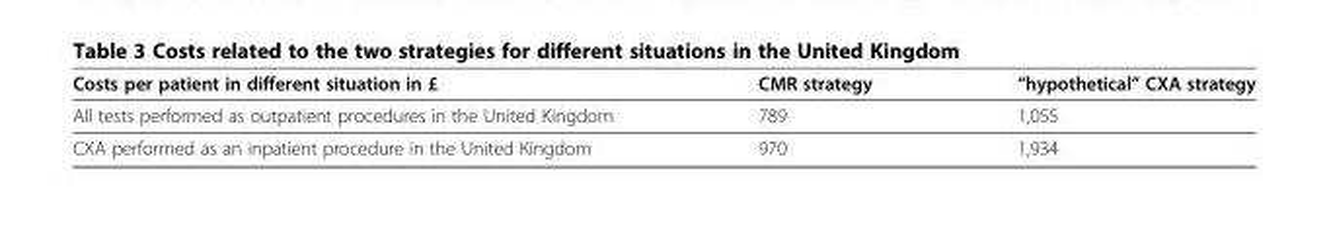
<table><thead><tr><td>Costs per patient in different situation in £</td><td>CMR strategy</td><td>“hypothetical” CXA strategy</td></tr></thead><tbody><tr><td>All tests performed as outpatient procedures in the United Kingdom</td><td>789</td><td>1,055</td></tr><tr><td>CXA performed as an inpatient procedure in the United Kingdom</td><td>970</td><td>1,934</td></tr></tbody></table>